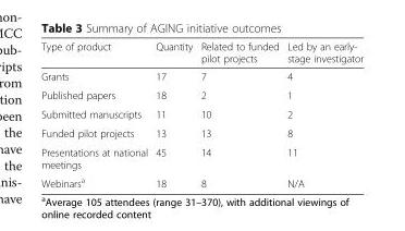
<table><thead><tr><td>Type of product</td><td>Quantity</td><td>Related to funded pilot projects</td><td>Led by an early- stage investigator</td></tr></thead><tbody><tr><td>Grants</td><td>17</td><td>7</td><td>4</td></tr><tr><td>Published papers</td><td>18</td><td>2</td><td>1</td></tr><tr><td>Submitted manuscripts</td><td>11</td><td>10</td><td>2</td></tr><tr><td>Funded pilot projects</td><td>13</td><td>13</td><td>8</td></tr><tr><td>Presentations at national meetings</td><td>45</td><td>14</td><td>11</td></tr><tr><td>Webinars<sup>a</sup></td><td>18</td><td>8</td><td>N/A</td></tr></tbody></table>